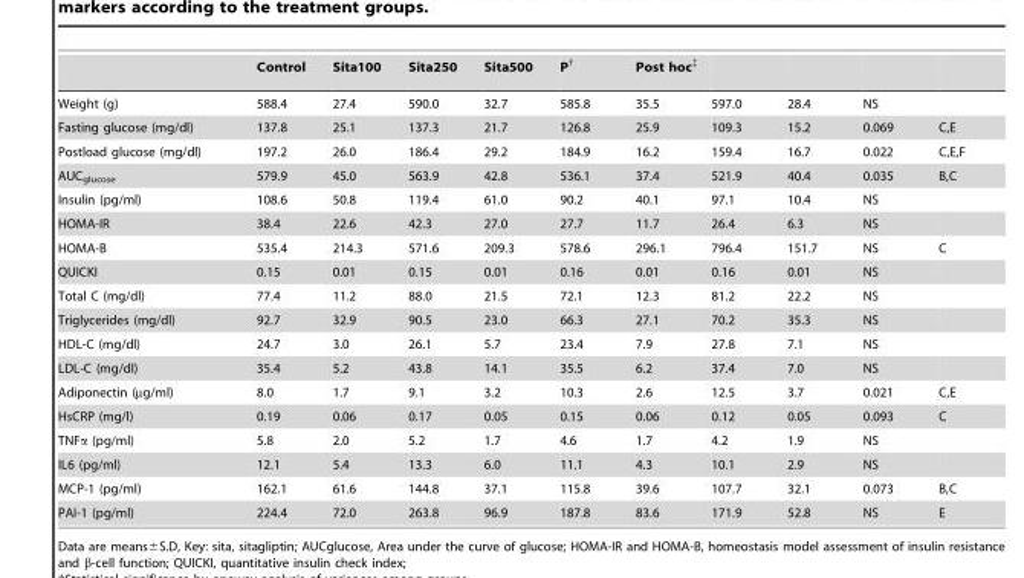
<table><thead><tr><td></td><td>Control</td><td>Sita100</td><td>Sita250</td><td>Sita500</td><td>P†</td><td>Post hoc‡</td><td></td><td></td><td></td><td></td></tr></thead><tbody><tr><td>Weight (g)</td><td>588.4</td><td>27.4</td><td>590.0</td><td>32.7</td><td>585.8</td><td>35.5</td><td>597.0</td><td>28.4</td><td>NS</td><td></td></tr><tr><td>Fasting glucose (mg/dl)</td><td>137.8</td><td>25.1</td><td>137.3</td><td>21.7</td><td>126.8</td><td>25.9</td><td>109.3</td><td>15.2</td><td>0.069</td><td>C,E</td></tr><tr><td>Postload glucose (mg/dl)</td><td>197.2</td><td>26.0</td><td>186.4</td><td>29.2</td><td>184.9</td><td>16.2</td><td>159.4</td><td>16.7</td><td>0.022</td><td>C,E,F</td></tr><tr><td>AUC<sub>glucose</sub></td><td>579.9</td><td>45.0</td><td>563.9</td><td>42.8</td><td>536.1</td><td>37.4</td><td>521.9</td><td>40.4</td><td>0.035</td><td>B,C</td></tr><tr><td>Insulin (pg/ml)</td><td>108.6</td><td>50.8</td><td>119.4</td><td>61.0</td><td>90.2</td><td>40.1</td><td>97.1</td><td>10.4</td><td>NS</td><td></td></tr><tr><td>HOMA-IR</td><td>38.4</td><td>22.6</td><td>42.3</td><td>27.0</td><td>27.7</td><td>11.7</td><td>26.4</td><td>6.3</td><td>NS</td><td></td></tr><tr><td>HOMA-B</td><td>535.4</td><td>214.3</td><td>571.6</td><td>209.3</td><td>578.6</td><td>296.1</td><td>796.4</td><td>151.7</td><td>NS</td><td>C</td></tr><tr><td>QUICKI</td><td>0.15</td><td>0.01</td><td>0.15</td><td>0.01</td><td>0.16</td><td>0.01</td><td>0.16</td><td>0.01</td><td>NS</td><td></td></tr><tr><td>Total C (mg/dl)</td><td>77.4</td><td>11.2</td><td>88.0</td><td>21.5</td><td>72.1</td><td>12.3</td><td>81.2</td><td>22.2</td><td>NS</td><td></td></tr><tr><td>Triglycerides (mg/dl)</td><td>92.7</td><td>32.9</td><td>90.5</td><td>23.0</td><td>66.3</td><td>27.1</td><td>70.2</td><td>35.3</td><td>NS</td><td></td></tr><tr><td>HDL-C (mg/dl)</td><td>24.7</td><td>3.0</td><td>26.1</td><td>5.7</td><td>23.4</td><td>7.9</td><td>27.8</td><td>7.1</td><td>NS</td><td></td></tr><tr><td>LDL-C (mg/dl)</td><td>35.4</td><td>5.2</td><td>43.8</td><td>14.1</td><td>35.5</td><td>6.2</td><td>37.4</td><td>7.0</td><td>NS</td><td></td></tr><tr><td>Adiponectin (µg/ml)</td><td>8.0</td><td>1.7</td><td>9.1</td><td>3.2</td><td>10.3</td><td>2.6</td><td>12.5</td><td>3.7</td><td>0.021</td><td>C,E</td></tr><tr><td>HsCRP (mg/l)</td><td>0.19</td><td>0.06</td><td>0.17</td><td>0.05</td><td>0.15</td><td>0.06</td><td>0.12</td><td>0.05</td><td>0.093</td><td>C</td></tr><tr><td>TNFα (pg/ml)</td><td>5.8</td><td>2.0</td><td>5.2</td><td>1.7</td><td>4.6</td><td>1.7</td><td>4.2</td><td>1.9</td><td>NS</td><td></td></tr><tr><td>IL6 (pg/ml)</td><td>12.1</td><td>5.4</td><td>13.3</td><td>6.0</td><td>11.1</td><td>4.3</td><td>10.1</td><td>2.9</td><td>NS</td><td></td></tr><tr><td>MCP-1 (pg/ml)</td><td>162.1</td><td>61.6</td><td>144.8</td><td>37.1</td><td>115.8</td><td>39.6</td><td>107.7</td><td>32.1</td><td>0.073</td><td>B,C</td></tr><tr><td>PAI-1 (pg/ml)</td><td>224.4</td><td>72.0</td><td>263.8</td><td>96.9</td><td>187.8</td><td>83.6</td><td>171.9</td><td>52.8</td><td>NS</td><td>E</td></tr></tbody></table>